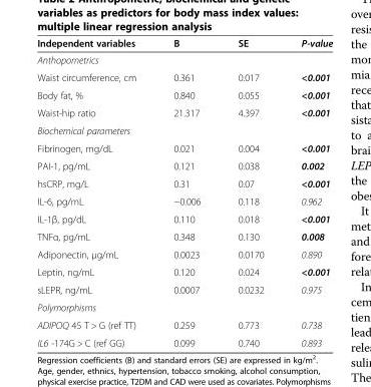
<table><thead><tr><td>Independent variables</td><td>B</td><td>SE</td><td>P-value</td></tr></thead><tbody><tr><td colspan="4">Anthopometrics</td></tr><tr><td>Waist circumference, cm</td><td>0.361</td><td>0.017</td><td>&lt;0.001</td></tr><tr><td>Body fat, %</td><td>0.840</td><td>0.055</td><td>&lt;0.001</td></tr><tr><td>Waist-hip ratio</td><td>21.317</td><td>4.397</td><td>&lt;0.001</td></tr><tr><td colspan="4">Biochemical parameters</td></tr><tr><td>Fibrinogen, mg/dL</td><td>0.021</td><td>0.004</td><td>&lt;0.001</td></tr><tr><td>PAI-1, pg/mL</td><td>0.121</td><td>0.038</td><td>0.002</td></tr><tr><td>hsCRP, mg/L</td><td>0.31</td><td>0.07</td><td>&lt;0.001</td></tr><tr><td>IL-6, pg/mL</td><td>−0.006</td><td>0.118</td><td>0.962</td></tr><tr><td>IL-1β, pg/dL</td><td>0.110</td><td>0.018</td><td>&lt;0.001</td></tr><tr><td>TNFα, pg/mL</td><td>0.348</td><td>0.130</td><td>0.008</td></tr><tr><td>Adiponectin, μg/mL</td><td>0.0023</td><td>0.0170</td><td>0.890</td></tr><tr><td>Leptin, ng/mL</td><td>0.120</td><td>0.024</td><td>&lt;0.001</td></tr><tr><td>sLEPR, ng/mL</td><td>0.0007</td><td>0.0232</td><td>0.975</td></tr><tr><td colspan="4">Polymorphisms</td></tr><tr><td>ADIPOQ 45 T &gt; G (ref TT)</td><td>0.259</td><td>0.773</td><td>0.738</td></tr><tr><td>IL6 -174G &gt; C (ref GG)</td><td>0.099</td><td>0.740</td><td>0.893</td></tr></tbody></table>